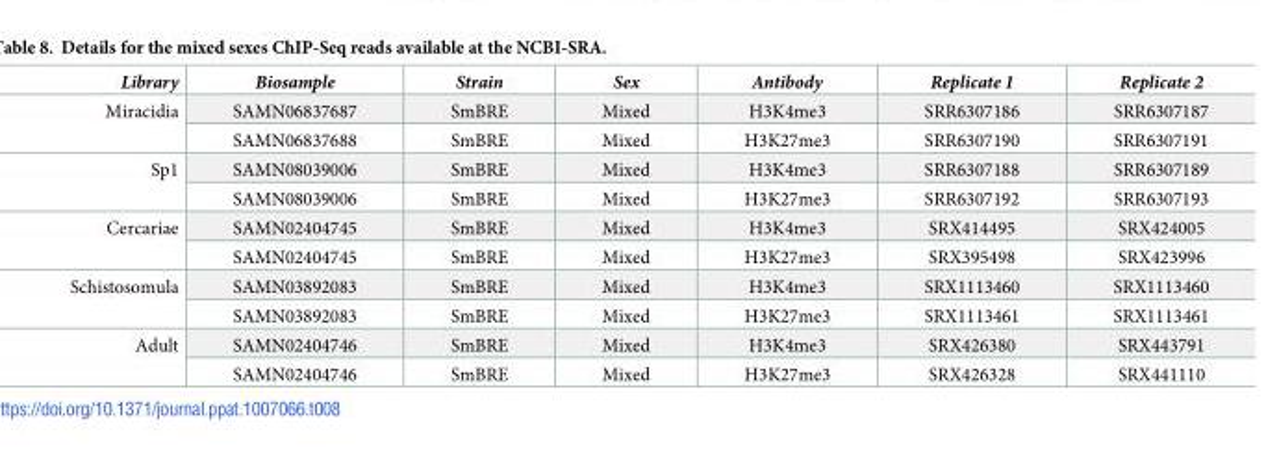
<table><thead><tr><td>Library</td><td>Biosample</td><td>Strain</td><td>Sex</td><td>Antibody</td><td>Replicate 1</td><td>Replicate 2</td></tr></thead><tbody><tr><td rowspan="2">Miracidia</td><td>SAMN06837687</td><td>SmBRE</td><td>Mixed</td><td>H3K4me3</td><td>SRR6307186</td><td>SRR6307187</td></tr><tr><td>SAMN06837688</td><td>SmBRE</td><td>Mixed</td><td>H3K27me3</td><td>SRR6307190</td><td>SRR6307191</td></tr><tr><td rowspan="2">Sp1</td><td>SAMN08039006</td><td>SmBRE</td><td>Mixed</td><td>H3K4me3</td><td>SRR6307188</td><td>SRR6307189</td></tr><tr><td>SAMN08039006</td><td>SmBRE</td><td>Mixed</td><td>H3K27me3</td><td>SRR6307192</td><td>SRR6307193</td></tr><tr><td rowspan="2">Cercariae</td><td>SAMN02404745</td><td>SmBRE</td><td>Mixed</td><td>H3K4me3</td><td>SRX414495</td><td>SRX424005</td></tr><tr><td>SAMN02404745</td><td>SmBRE</td><td>Mixed</td><td>H3K27me3</td><td>SRX395498</td><td>SRX423996</td></tr><tr><td rowspan="2">Schistosomula</td><td>SAMN03892083</td><td>SmBRE</td><td>Mixed</td><td>H3K4me3</td><td>SRX1113460</td><td>SRX1113460</td></tr><tr><td>SAMN03892083</td><td>SmBRE</td><td>Mixed</td><td>H3K27me3</td><td>SRX1113461</td><td>SRX1113461</td></tr><tr><td rowspan="2">Adult</td><td>SAMN02404746</td><td>SmBRE</td><td>Mixed</td><td>H3K4me3</td><td>SRX426380</td><td>SRX443791</td></tr><tr><td>SAMN02404746</td><td>SmBRE</td><td>Mixed</td><td>H3K27me3</td><td>SRX426328</td><td>SRX441110</td></tr></tbody></table>